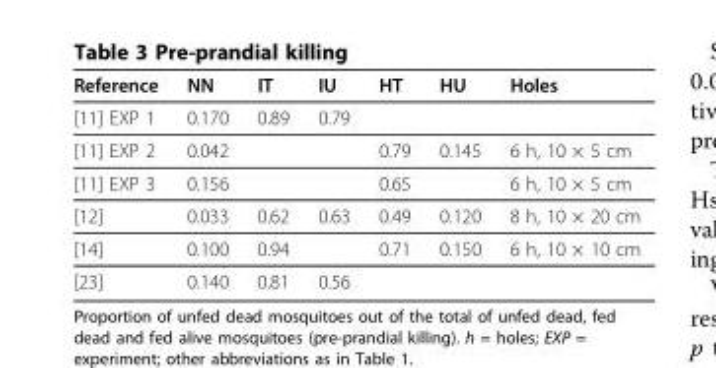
<table><thead><tr><td>Reference</td><td>NN</td><td>IT</td><td>IU</td><td>HT</td><td>HU</td><td>Holes</td></tr></thead><tbody><tr><td>[11] EXP 1</td><td>0.170</td><td>0.89</td><td>0.79</td><td></td><td></td><td></td></tr><tr><td>[11] EXP 2</td><td>0.042</td><td></td><td></td><td>0.79</td><td>0.145</td><td>6 h, 10 × 5 cm</td></tr><tr><td>[11] EXP 3</td><td>0.156</td><td></td><td></td><td>0.65</td><td></td><td>6 h, 10 × 5 cm</td></tr><tr><td>[12]</td><td>0.033</td><td>0.62</td><td>0.63</td><td>0.49</td><td>0.120</td><td>8 h, 10 × 20 cm</td></tr><tr><td>[14]</td><td>0.100</td><td>0.94</td><td></td><td>0.71</td><td>0.150</td><td>6 h, 10 × 10 cm</td></tr><tr><td>[23]</td><td>0.140</td><td>0.81</td><td>0.56</td><td></td><td></td><td></td></tr></tbody></table>